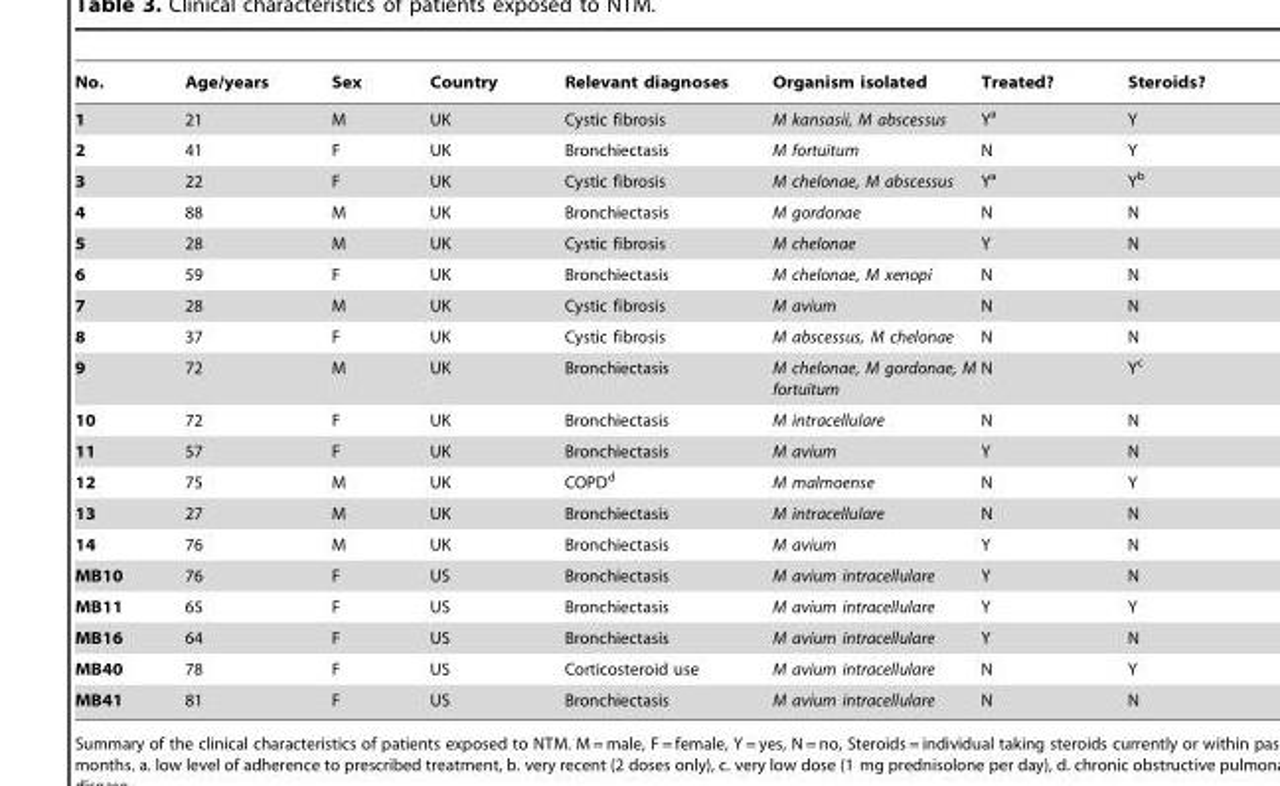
<table><thead><tr><td>No.</td><td>Age/years</td><td>Sex</td><td>Country</td><td>Relevant diagnoses</td><td>Organism isolated</td><td>Treated?</td><td>Steroids?</td></tr></thead><tbody><tr><td>1</td><td>21</td><td>M</td><td>UK</td><td>Cystic fibrosis</td><td>M kansasii, M abscessus</td><td>Y<sup>a</sup></td><td>Y</td></tr><tr><td>2</td><td>41</td><td>F</td><td>UK</td><td>Bronchiectasis</td><td>M fortuitum</td><td>N</td><td>Y</td></tr><tr><td>3</td><td>22</td><td>F</td><td>UK</td><td>Cystic fibrosis</td><td>M chelonae, M abscessus</td><td>Y<sup>a</sup></td><td>Y<sup>b</sup></td></tr><tr><td>4</td><td>88</td><td>M</td><td>UK</td><td>Bronchiectasis</td><td>M gordonae</td><td>N</td><td>N</td></tr><tr><td>5</td><td>28</td><td>M</td><td>UK</td><td>Cystic fibrosis</td><td>M chelonae</td><td>Y</td><td>N</td></tr><tr><td>6</td><td>59</td><td>F</td><td>UK</td><td>Bronchiectasis</td><td>M chelonae, M xenopi</td><td>N</td><td>N</td></tr><tr><td>7</td><td>28</td><td>M</td><td>UK</td><td>Cystic fibrosis</td><td>M avium</td><td>N</td><td>N</td></tr><tr><td>8</td><td>37</td><td>F</td><td>UK</td><td>Cystic fibrosis</td><td>M abscessus, M chelonae</td><td>N</td><td>N</td></tr><tr><td>9</td><td>72</td><td>M</td><td>UK</td><td>Bronchiectasis</td><td>M chelonae, M gordonae, M fortuitum</td><td>N</td><td>Y<sup>c</sup></td></tr><tr><td>10</td><td>72</td><td>F</td><td>UK</td><td>Bronchiectasis</td><td>M intracellulare</td><td>N</td><td>N</td></tr><tr><td>11</td><td>57</td><td>F</td><td>UK</td><td>Bronchiectasis</td><td>M avium</td><td>Y</td><td>N</td></tr><tr><td>12</td><td>75</td><td>M</td><td>UK</td><td>COPD<sup>d</sup></td><td>M malmoense</td><td>N</td><td>Y</td></tr><tr><td>13</td><td>27</td><td>M</td><td>UK</td><td>Bronchiectasis</td><td>M intracellulare</td><td>N</td><td>N</td></tr><tr><td>14</td><td>76</td><td>M</td><td>UK</td><td>Bronchiectasis</td><td>M avium</td><td>Y</td><td>N</td></tr><tr><td>MB10</td><td>76</td><td>F</td><td>US</td><td>Bronchiectasis</td><td>M avium intracellulare</td><td>Y</td><td>N</td></tr><tr><td>MB11</td><td>65</td><td>F</td><td>US</td><td>Bronchiectasis</td><td>M avium intracellulare</td><td>Y</td><td>Y</td></tr><tr><td>MB16</td><td>64</td><td>F</td><td>US</td><td>Bronchiectasis</td><td>M avium intracellulare</td><td>Y</td><td>N</td></tr><tr><td>MB40</td><td>78</td><td>F</td><td>US</td><td>Corticosteroid use</td><td>M avium intracellulare</td><td>N</td><td>Y</td></tr><tr><td>MB41</td><td>81</td><td>F</td><td>US</td><td>Bronchiectasis</td><td>M avium intracellulare</td><td>N</td><td>N</td></tr></tbody></table>